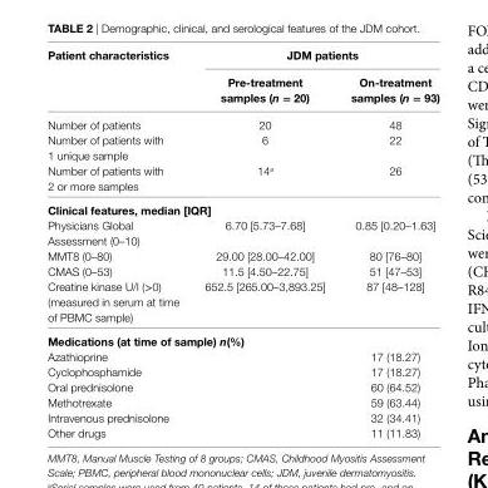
<table><thead><tr><td rowspan="2">Patient characteristics</td><td colspan="2">JDM patients</td></tr><tr><td>Pre-treatment samples (n = 20)</td><td>On-treatment samples (n = 93)</td></tr></thead><tbody><tr><td>Number of patients</td><td>20</td><td>48</td></tr><tr><td>Number of patients with 1 unique sample</td><td>6</td><td>22</td></tr><tr><td>Number of patients with 2 or more samples</td><td>14<sup>a</sup></td><td>26</td></tr><tr><td colspan="3">clinical features, median [iQr]</td></tr><tr><td>Physicians Global Assessment (0–10)</td><td>6.70 [5.73–7.68]</td><td>0.85 [0.20–1.63]</td></tr><tr><td>MMT8 (0–80)</td><td>29.00 [28.00–42.00]</td><td>80 [76–80]</td></tr><tr><td>CMAS (0–53)</td><td>11.5 [4.50–22.75]</td><td>51 [47–53]</td></tr><tr><td>Creatine kinase U/l (&gt;0) (measured in serum at time of PBMC sample)</td><td>652.5 [265.00–3,893.25]</td><td>87 [48–128]</td></tr><tr><td colspan="3">Medications (at time of sample) n(%)</td></tr><tr><td>Azathioprine</td><td></td><td>17 (18.27)</td></tr><tr><td>Cyclophosphamide</td><td></td><td>17 (18.27)</td></tr><tr><td>Oral prednisolone</td><td></td><td>60 (64.52)</td></tr><tr><td>Methotrexate</td><td></td><td>59 (63.44)</td></tr><tr><td>Intravenous prednisolone</td><td></td><td>32 (34.41)</td></tr><tr><td>Other drugs</td><td></td><td>11 (11.83)</td></tr></tbody></table>